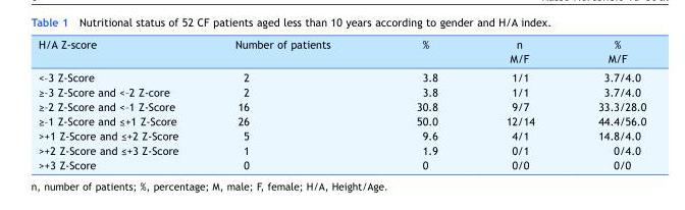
<table><thead><tr><td>H/A Z-score</td><td>Number of patients</td><td>%</td><td>n M/F</td><td>% M/F</td></tr></thead><tbody><tr><td>&lt;–3 Z-Score</td><td>2</td><td>3.8</td><td>1/1</td><td>3.7/4.0</td></tr><tr><td>≥–3 Z-Score and &lt;–2 Z-core</td><td>2</td><td>3.8</td><td>1/1</td><td>3.7/4.0</td></tr><tr><td>≥–2 Z-Score and &lt;–1 Z-Score</td><td>16</td><td>30.8</td><td>9/7</td><td>33.3/28.0</td></tr><tr><td>≥–1 Z-Score and ≤+1 Z-Score</td><td>26</td><td>50.0.</td><td>12/14</td><td>44.4/56.0</td></tr><tr><td>&gt;+1 Z-Score and ≤+2 Z-Score</td><td>5</td><td>9.6</td><td>4/1</td><td>14.8/4.0</td></tr><tr><td>&gt;+2 Z-Score and ≤+3 Z-Score</td><td>1</td><td>1.9</td><td>0/1</td><td>0/4.0</td></tr><tr><td>&gt;+3 Z-Score</td><td>0</td><td>0.</td><td>0/0</td><td>0/0</td></tr></tbody></table>